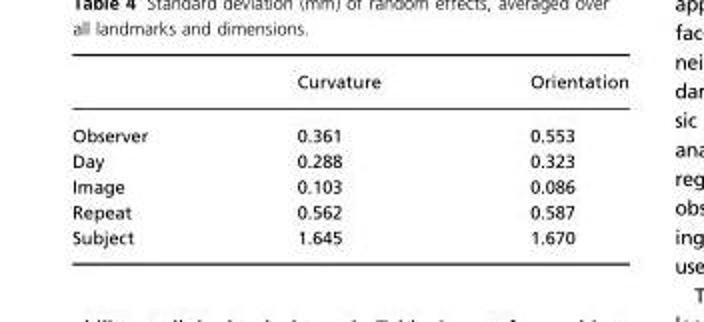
<table><thead><tr><td></td><td>Curvature</td><td>Orientation</td></tr></thead><tbody><tr><td>Observer</td><td>0.361</td><td>0.553</td></tr><tr><td>Day</td><td>0.288</td><td>0.323</td></tr><tr><td>Image</td><td>0.103</td><td>0.086</td></tr><tr><td>Repeat</td><td>0.562</td><td>0.587</td></tr><tr><td>Subject</td><td>1.645</td><td>1.670</td></tr></tbody></table>